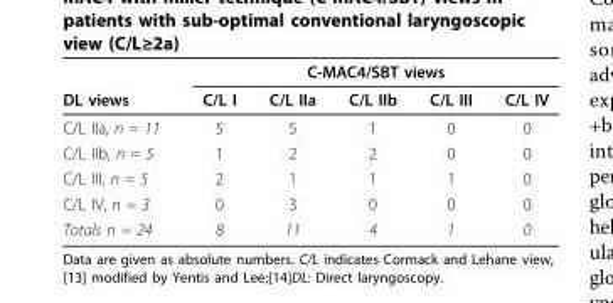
<table><thead><tr><td rowspan="2">DL views</td><td colspan="5">C-MAC4/SBT views</td></tr><tr><td>C/L I</td><td>C/L IIa</td><td>C/L IIb</td><td>C/L III</td><td>C/L IV</td></tr></thead><tbody><tr><td>C/L IIa, n = 11</td><td>5</td><td>5</td><td>1</td><td>0</td><td>0</td></tr><tr><td>C/L IIb, n = 5</td><td>1</td><td>2</td><td>2</td><td>0</td><td>0</td></tr><tr><td>C/L III, n = 5</td><td>2</td><td>1</td><td>1</td><td>1</td><td>0</td></tr><tr><td>C/L IV, n = 3</td><td>0</td><td>3</td><td>0</td><td>0</td><td>0</td></tr><tr><td>Totals n = 24</td><td>8</td><td>11</td><td>4</td><td>1</td><td>0</td></tr></tbody></table>